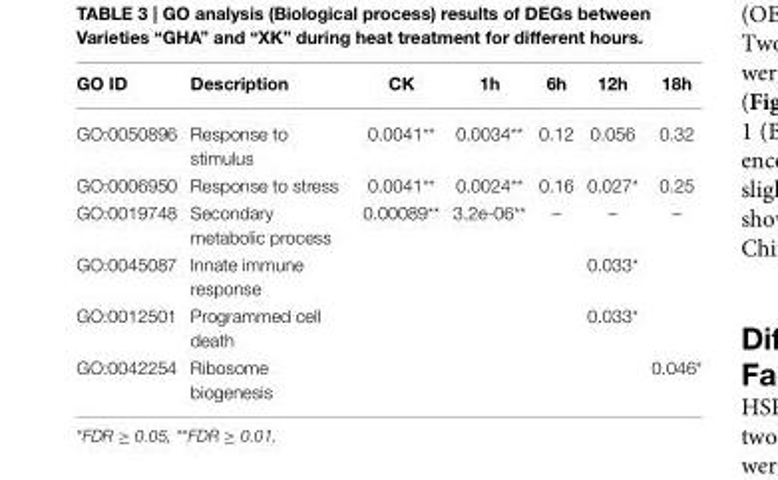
<table><thead><tr><td>GO ID</td><td>Description</td><td>CK</td><td>1h</td><td>6h</td><td>12h</td><td>18h</td></tr></thead><tbody><tr><td>GO:0050896</td><td>Response to stimulus</td><td>0.0041**</td><td>0.0034**</td><td>0.12</td><td>0.056</td><td>0.32</td></tr><tr><td>GO:0006950</td><td>Response to stress</td><td>0.0041**</td><td>0.0024**</td><td>0.16</td><td>0.027*</td><td>0.25</td></tr><tr><td>GO:0019748</td><td>Secondary metabolic process</td><td>0.00089**</td><td>3.2e-06**</td><td>–</td><td>–</td><td>–</td></tr><tr><td>GO:0045087</td><td>Innate immune response</td><td></td><td></td><td></td><td>0.033*</td><td></td></tr><tr><td>GO:0012501</td><td>Programmed cell death</td><td></td><td></td><td></td><td>0.033*</td><td></td></tr><tr><td>GO:0042254</td><td>Ribosome biogenesis</td><td></td><td></td><td></td><td></td><td>0.046*</td></tr></tbody></table>